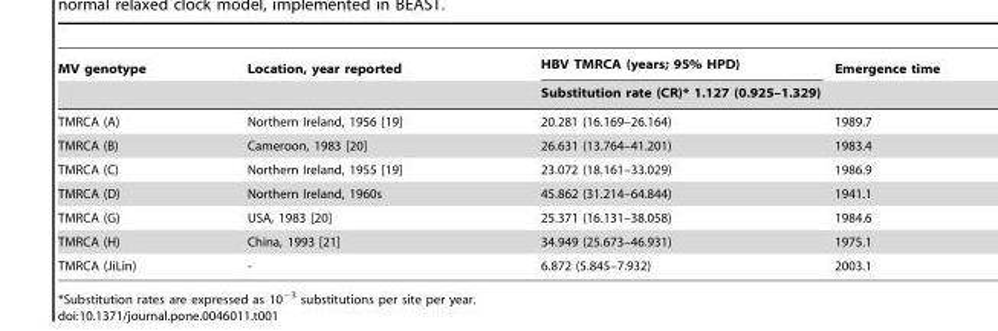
<table><thead><tr><td rowspan="2">MV genotype</td><td rowspan="2">Location, year reported</td><td rowspan="2">HBV TMRCA (years; 95% HPD) Substitution rate (CR)* 1.127 (0.925–1.329)</td><td rowspan="2">Emergence time</td></tr><tr></tr></thead><tbody><tr><td>TMRCA (A)</td><td>Northern Ireland, 1956 [19]</td><td>20.281 (16.169–26.164)</td><td>1989.7</td></tr><tr><td>TMRCA (B)</td><td>Cameroon, 1983 [20]</td><td>26.631 (13.764–41.201)</td><td>1983.4</td></tr><tr><td>TMRCA (C)</td><td>Northern Ireland, 1955 [19]</td><td>23.072 (18.161–33.029)</td><td>1986.9</td></tr><tr><td>TMRCA (D)</td><td>Northern Ireland, 1960s</td><td>45.862 (31.214–64.844)</td><td>1941.1</td></tr><tr><td>TMRCA (G)</td><td>USA, 1983 [20]</td><td>25.371 (16.131–38.058)</td><td>1984.6</td></tr><tr><td>TMRCA (H)</td><td>China, 1993 [21]</td><td>34.949 (25.673–46.931)</td><td>1975.1</td></tr><tr><td>TMRCA (JiLin)</td><td>-</td><td>6.872 (5.845–7.932)</td><td>2003.1</td></tr></tbody></table>